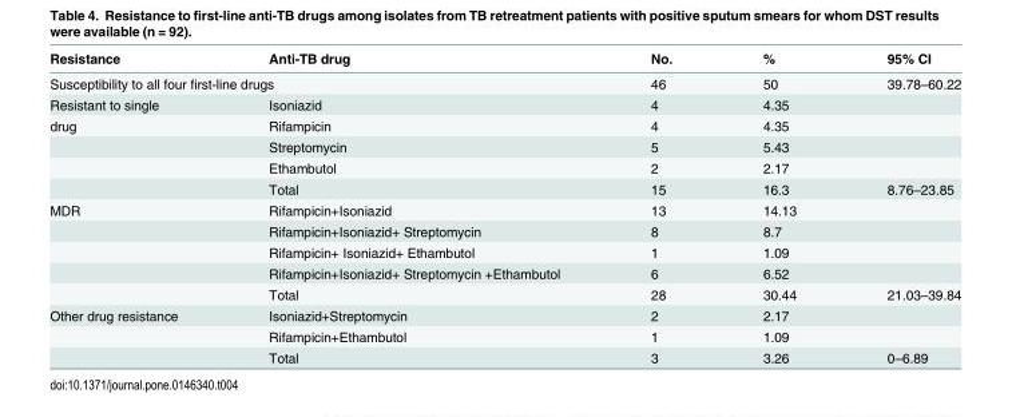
<table><thead><tr><td>Resistance</td><td>Anti-TB drug</td><td>No.</td><td>%</td><td>95% CI</td></tr></thead><tbody><tr><td colspan="2">Susceptibility to all four first-line drugs</td><td>46</td><td>50</td><td>39.78–60.22</td></tr><tr><td>Resistant to single</td><td>Isoniazid</td><td>4</td><td>4.35</td><td></td></tr><tr><td rowspan="4">drug</td><td>Rifampicin</td><td>4</td><td>4.35</td><td></td></tr><tr><td>Streptomycin</td><td>5</td><td>5.43</td><td></td></tr><tr><td>Ethambutol</td><td>2</td><td>2.17</td><td></td></tr><tr><td>Total</td><td>15</td><td>16.3</td><td>8.76–23.85</td></tr><tr><td rowspan="5">MDR</td><td>Rifampicin+Isoniazid</td><td>13</td><td>14.13</td><td></td></tr><tr><td>Rifampicin+Isoniazid+ Streptomycin</td><td>8</td><td>8.7</td><td></td></tr><tr><td>Rifampicin+ Isoniazid+ Ethambutol</td><td>1</td><td>1.09</td><td></td></tr><tr><td>Rifampicin+Isoniazid+ Streptomycin +Ethambutol</td><td>6</td><td>6.52</td><td></td></tr><tr><td>Total</td><td>28</td><td>30.44</td><td>21.03–39.84</td></tr><tr><td rowspan="3">Other drug resistance</td><td>Isoniazid+Streptomycin</td><td>2</td><td>2.17</td><td></td></tr><tr><td>Rifampicin+Ethambutol</td><td>1</td><td>1.09</td><td></td></tr><tr><td>Total</td><td>3</td><td>3.26</td><td>0–6.89</td></tr></tbody></table>